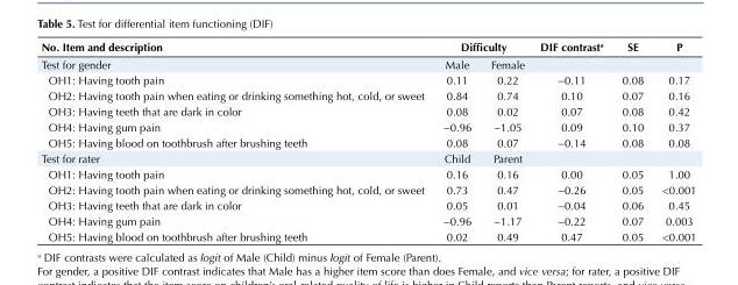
<table><tbody><tr><td>No. Item and description</td><td colspan="2">Difficulty</td><td>DIF contrast<sup>a</sup></td><td>SE</td><td>P</td></tr><tr><td>Test for gender</td><td>Male</td><td>Female</td><td></td><td></td><td></td></tr><tr><td>OH1: Having tooth pain</td><td>0.11</td><td>0.22</td><td>−0.11</td><td>0.08</td><td>0.17</td></tr><tr><td>OH2: Having tooth pain when eating or drinking something hot, cold, or sweet</td><td>0.84</td><td>0.74</td><td>0.10</td><td>0.07</td><td>0.16</td></tr><tr><td>OH3: Having teeth that are dark in color</td><td>0.08</td><td>0.02</td><td>0.07</td><td>0.08</td><td>0.42</td></tr><tr><td>OH4: Having gum pain</td><td>−0.96</td><td>−1.05</td><td>0.09</td><td>0.10</td><td>0.37</td></tr><tr><td>OH5: Having blood on toothbrush after brushing teeth</td><td>0.08</td><td>0.07</td><td>−0.14</td><td>0.08</td><td>0.08</td></tr><tr><td>Test for rater</td><td>Child</td><td>Parent</td><td></td><td></td><td></td></tr><tr><td>OH1: Having tooth pain</td><td>0.16</td><td>0.16</td><td>0.00</td><td>0.05</td><td>1.00</td></tr><tr><td>OH2: Having tooth pain when eating or drinking something hot, cold, or sweet</td><td>0.73</td><td>0.47</td><td>−0.26</td><td>0.05</td><td>&lt;0.001</td></tr><tr><td>OH3: Having teeth that are dark in color</td><td>0.05</td><td>0.01</td><td>−0.04</td><td>0.06</td><td>0.45</td></tr><tr><td>OH4: Having gum pain</td><td>−0.96</td><td>−1.17</td><td>−0.22</td><td>0.07</td><td>0.003</td></tr><tr><td>OH5: Having blood on toothbrush after brushing teeth</td><td>0.02</td><td>0.49</td><td>0.47</td><td>0.05</td><td>&lt;0.001</td></tr></tbody></table>